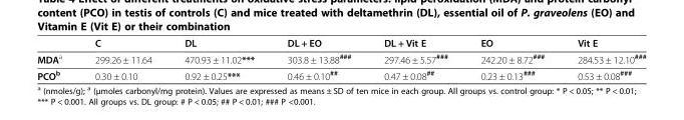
<table><thead><tr><td></td><td>C</td><td>DL</td><td>DL + EO</td><td>DL + Vit E</td><td>EO</td><td>Vit E</td></tr></thead><tbody><tr><td>MDA<sup>a</sup></td><td>299.26 ± 11.64</td><td>470.93 ± 11.02***</td><td>303.8 ± 13.88<sup>###</sup></td><td>297.46 ± 5.57<sup>###</sup></td><td>242.20 ± 8.72<sup>###</sup></td><td>284.53 ± 12.10<sup>###</sup></td></tr><tr><td>PCO<sup>b</sup></td><td>0.30 ± 0.10</td><td>0.92 ± 0.25***</td><td>0.46 ± 0.10<sup>##</sup></td><td>0.47 ± 0.08<sup>##</sup></td><td>0.23 ± 0.13<sup>###</sup></td><td>0.53 ± 0.08<sup>###</sup></td></tr></tbody></table>